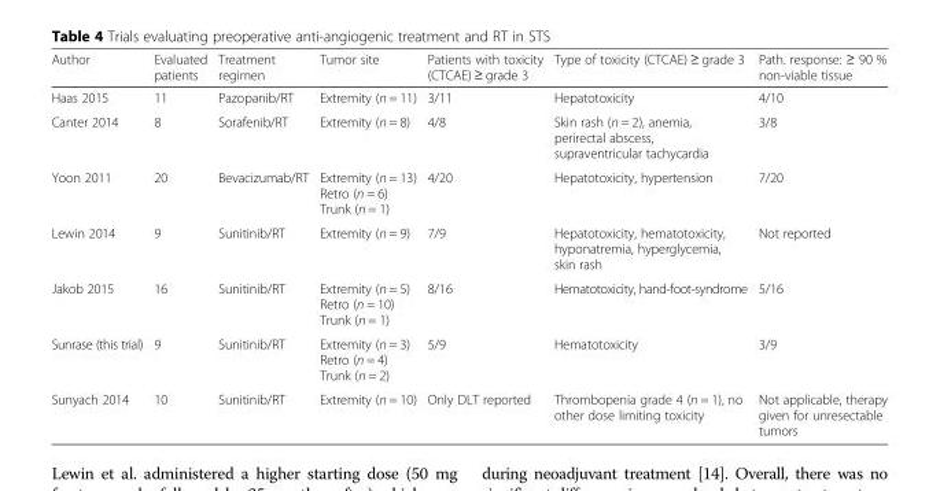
<table><thead><tr><td>Author</td><td>Evaluated patients</td><td>Treatment regimen</td><td>Tumor site</td><td>Patients with toxicity (CTCAE) ≥ grade 3</td><td>Type of toxicity (CTCAE) ≥ grade 3</td><td>Path. response: ≥ 90 % non-viable tissue</td></tr></thead><tbody><tr><td>Haas 2015</td><td>11</td><td>Pazopanib/RT</td><td>Extremity (n = 11)</td><td>3/11</td><td>Hepatotoxicity</td><td>4/10</td></tr><tr><td>Canter 2014</td><td>8</td><td>Sorafenib/RT</td><td>Extremity (n = 8)</td><td>4/8</td><td>Skin rash (n = 2), anemia, perirectal abscess, supraventricular tachycardia</td><td>3/8</td></tr><tr><td>Yoon 2011</td><td>20</td><td>Bevacizumab/RT</td><td>Extremity (n = 13) Retro (n = 6) Trunk (n = 1)</td><td>4/20</td><td>Hepatotoxicity, hypertension</td><td>7/20</td></tr><tr><td>Lewin 2014</td><td>9</td><td>Sunitinib/RT</td><td>Extremity (n = 9)</td><td>7/9</td><td>Hepatotoxicity, hematotoxicity, hyponatremia, hyperglycemia, skin rash</td><td>Not reported</td></tr><tr><td>Jakob 2015</td><td>16</td><td>Sunitinib/RT</td><td>Extremity (n = 5) Retro (n = 10) Trunk (n = 1)</td><td>8/16</td><td>Hematotoxicity, hand-foot-syndrome</td><td>5/16</td></tr><tr><td>Sunrase (this trial)</td><td>9</td><td>Sunitinib/RT</td><td>Extremity (n = 3) Retro (n = 4) Trunk (n = 2)</td><td>5/9</td><td>Hematotoxicity</td><td>3/9</td></tr><tr><td>Sunyach 2014</td><td>10</td><td>Sunitinib/RT</td><td>Extremity (n = 10)</td><td>Only DLT reported</td><td>Thrombopenia grade 4 (n = 1), no other dose limiting toxicity</td><td>Not applicable, therapy given for unresectable tumors</td></tr></tbody></table>